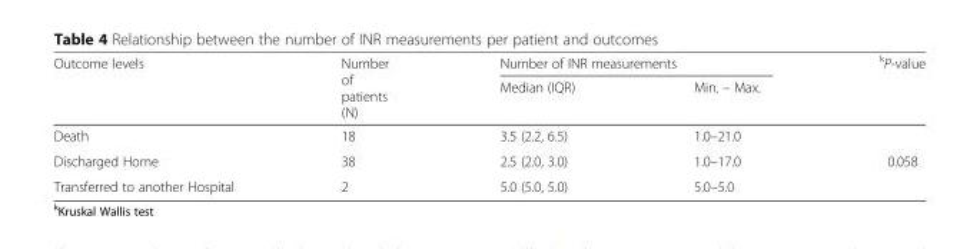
<table><thead><tr><td rowspan="2">Outcome levels</td><td rowspan="2">Number of patients (N)</td><td colspan="2">Number of INR measurements</td><td rowspan="2"><sup>k</sup>P-value</td></tr><tr><td>Median (IQR)</td><td>Min. – Max.</td></tr></thead><tbody><tr><td>Death</td><td>18</td><td>3.5 (2.2, 6.5)</td><td>1.0–21.0</td><td></td></tr><tr><td>Discharged Home</td><td>38</td><td>2.5 (2.0, 3.0)</td><td>1.0–17.0</td><td>0.058</td></tr><tr><td>Transferred to another Hospital</td><td>2</td><td>5.0 (5.0, 5.0)</td><td>5.0–5.0</td><td></td></tr></tbody></table>